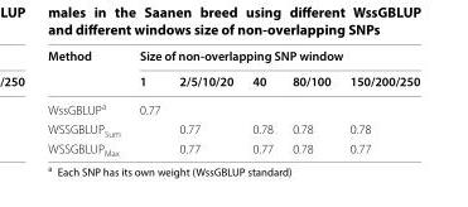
<table><thead><tr><td rowspan="2">Method</td><td colspan="5">Size of non‑overlapping SNP window</td></tr><tr><td>1</td><td>2/5/10/20</td><td>40</td><td>80/100</td><td>150/200/250</td></tr></thead><tbody><tr><td>WssGBLUP<sup>a</sup></td><td>0.77</td><td></td><td></td><td></td><td></td></tr><tr><td>WSSGBLUP<sub>Sum</sub></td><td></td><td>0.77</td><td>0.78</td><td>0.78</td><td>0.78</td></tr><tr><td>WSSGBLUP<sub>Max</sub></td><td></td><td>0.77</td><td>0.77</td><td>0.78</td><td>0.77</td></tr></tbody></table>